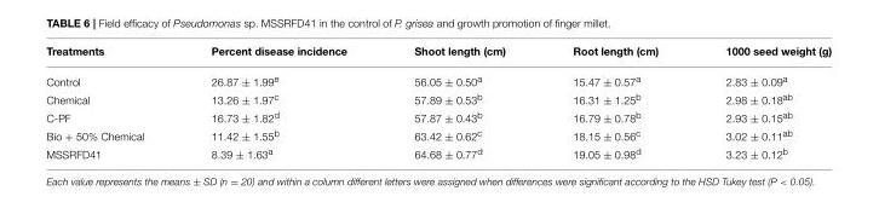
<table><thead><tr><td>Treatments</td><td>Percent disease incidence</td><td>Shoot length (cm)</td><td>Root length (cm)</td><td>1000 seed weight (g)</td></tr></thead><tbody><tr><td>Control</td><td>26.87 ± 1.99<sup>e</sup></td><td>56.05 ± 0.50<sup>a</sup></td><td>15.47 ± 0.57<sup>a</sup></td><td>2.83 ± 0.09<sup>a</sup></td></tr><tr><td>Chemical</td><td>13.26 ± 1.97<sup>c</sup></td><td>57.89 ± 0.53<sup>b</sup></td><td>16.31 ± 1.25<sup>b</sup></td><td>2.98 ± 0.18<sup>ab</sup></td></tr><tr><td>C-PF</td><td>16.73 ± 1.82<sup>d</sup></td><td>57.87 ± 0.43<sup>b</sup></td><td>16.79 ± 0.78<sup>b</sup></td><td>2.93 ± 0.15<sup>ab</sup></td></tr><tr><td>Bio + 50% Chemical</td><td>11.42 ± 1.55<sup>b</sup></td><td>63.42 ± 0.62<sup>c</sup></td><td>18.15 ± 0.56<sup>c</sup></td><td>3.02 ± 0.11<sup>ab</sup></td></tr><tr><td>MSSRFD41</td><td>8.39 ± 1.63<sup>a</sup></td><td>64.68 ± 0.77<sup>d</sup></td><td>19.05 ± 0.98<sup>d</sup></td><td>3.23 ± 0.12<sup>b</sup></td></tr></tbody></table>